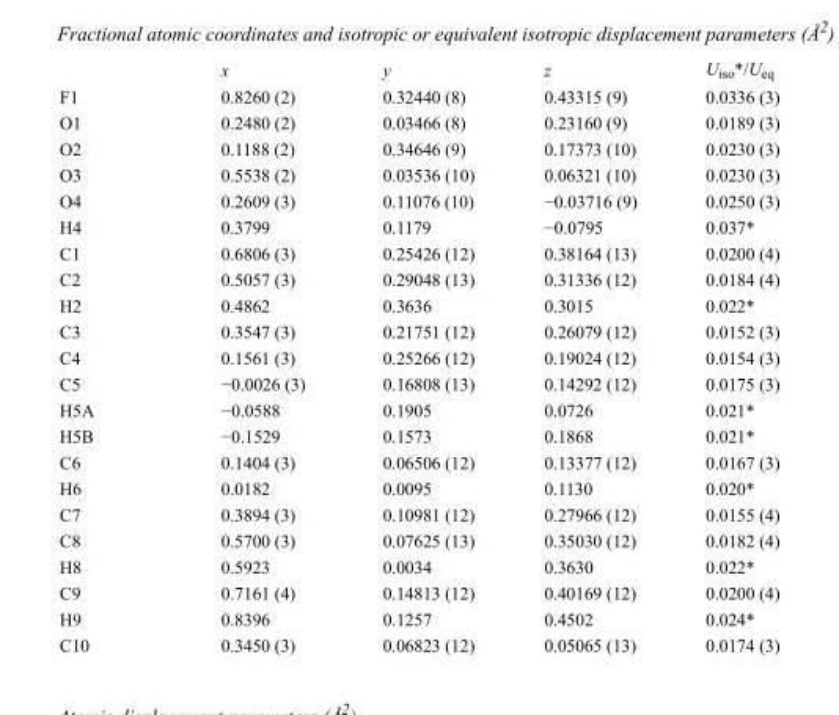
<table><thead><tr><td></td><td>x</td><td>y</td><td>z</td><td>U<sub>iso</sub>*/U<sub>eq</sub></td></tr></thead><tbody><tr><td>F1</td><td>0.8260 (2)</td><td>0.32440 (8)</td><td>0.43315 (9)</td><td>0.0336 (3)</td></tr><tr><td>O1</td><td>0.2480 (2)</td><td>0.03466 (8)</td><td>0.23160 (9)</td><td>0.0189 (3)</td></tr><tr><td>O2</td><td>0.1188 (2)</td><td>0.34646 (9)</td><td>0.17373 (10)</td><td>0.0230 (3)</td></tr><tr><td>O3</td><td>0.5538 (2)</td><td>0.03536 (10)</td><td>0.06321 (10)</td><td>0.0230 (3)</td></tr><tr><td>O4</td><td>0.2609 (3)</td><td>0.11076 (10)</td><td>−0.03716 (9)</td><td>0.0250 (3)</td></tr><tr><td>H4</td><td>0.3799</td><td>0.1179</td><td>−0.0795</td><td>0.037*</td></tr><tr><td>C1</td><td>0.6806 (3)</td><td>0.25426 (12)</td><td>0.38164 (13)</td><td>0.0200 (4)</td></tr><tr><td>C2</td><td>0.5057 (3)</td><td>0.29048 (13)</td><td>0.31336 (12)</td><td>0.0184 (4)</td></tr><tr><td>H2</td><td>0.4862</td><td>0.3636</td><td>0.3015</td><td>0.022*</td></tr><tr><td>C3</td><td>0.3547 (3)</td><td>0.21751 (12)</td><td>0.26079 (12)</td><td>0.0152 (3)</td></tr><tr><td>C4</td><td>0.1561 (3)</td><td>0.25266 (12)</td><td>0.19024 (12)</td><td>0.0154 (3)</td></tr><tr><td>C5</td><td>−0.0026 (3)</td><td>0.16808 (13)</td><td>0.14292 (12)</td><td>0.0175 (3)</td></tr><tr><td>H5A</td><td>−0.0588</td><td>0.1905</td><td>0.0726</td><td>0.021*</td></tr><tr><td>H5B</td><td>−0.1529</td><td>0.1573</td><td>0.1868</td><td>0.021*</td></tr><tr><td>C6</td><td>0.1404 (3)</td><td>0.06506 (12)</td><td>0.13377 (12)</td><td>0.0167 (3)</td></tr><tr><td>H6</td><td>0.0182</td><td>0.0095</td><td>0.1130</td><td>0.020*</td></tr><tr><td>C7</td><td>0.3894 (3)</td><td>0.10981 (12)</td><td>0.27966 (12)</td><td>0.0155 (4)</td></tr><tr><td>C8</td><td>0.5700 (3)</td><td>0.07625 (13)</td><td>0.35030 (12)</td><td>0.0182 (4)</td></tr><tr><td>H8</td><td>0.5923</td><td>0.0034</td><td>0.3630</td><td>0.022*</td></tr><tr><td>C9</td><td>0.7161 (4)</td><td>0.14813 (12)</td><td>0.40169 (12)</td><td>0.0200 (4)</td></tr><tr><td>H9</td><td>0.8396</td><td>0.1257</td><td>0.4502</td><td>0.024*</td></tr><tr><td>C10</td><td>0.3450 (3)</td><td>0.06823 (12)</td><td>0.05065 (13)</td><td>0.0174 (3)</td></tr></tbody></table>